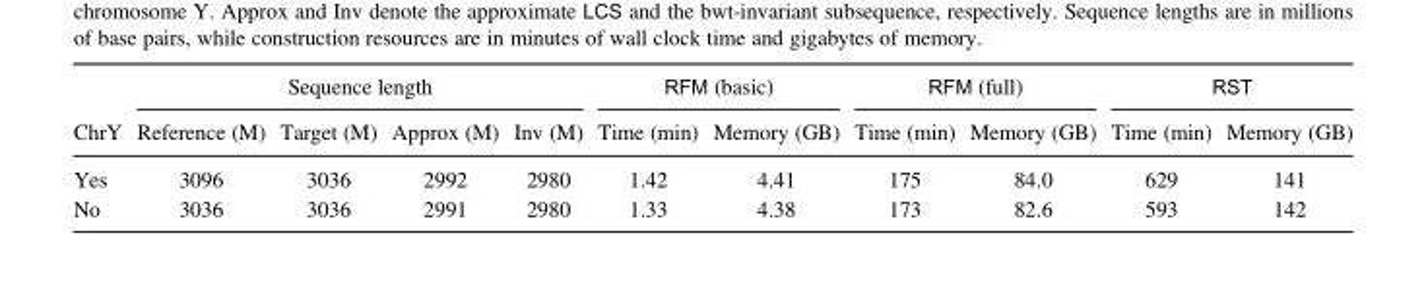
<table><thead><tr><td rowspan="2">ChrY</td><td colspan="4">Sequence length</td><td colspan="2">RFM (basic)</td><td colspan="2">RFM (full)</td><td colspan="2">RST</td></tr><tr><td>Reference (M)</td><td>Target (M)</td><td>Approx (M)</td><td>Inv (M)</td><td>Time (min)</td><td>Memory (GB)</td><td>Time (min)</td><td>Memory (GB)</td><td>Time (min)</td><td>Memory (GB)</td></tr></thead><tbody><tr><td>Yes</td><td>3096</td><td>3036</td><td>2992</td><td>2980</td><td>1.42</td><td>4.41</td><td>175</td><td>84.0</td><td>629</td><td>141</td></tr><tr><td>No</td><td>3036</td><td>3036</td><td>2991</td><td>2980</td><td>1.33</td><td>4.38</td><td>173</td><td>82.6</td><td>593</td><td>142</td></tr></tbody></table>